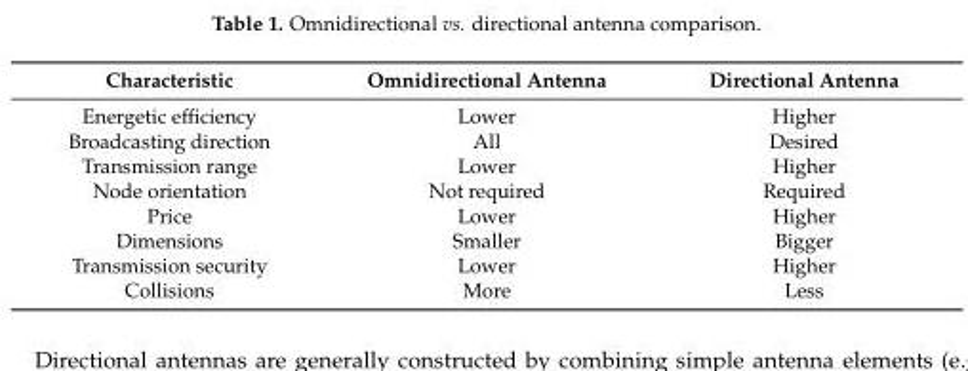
<table><thead><tr><td>Characteristic</td><td>Omnidirectional Antenna</td><td>Directional Antenna</td></tr></thead><tbody><tr><td>Energetic efficiency</td><td>Lower</td><td>Higher</td></tr><tr><td>Broadcasting direction</td><td>All</td><td>Desired</td></tr><tr><td>Transmission range</td><td>Lower</td><td>Higher</td></tr><tr><td>Node orientation</td><td>Not required</td><td>Required</td></tr><tr><td>Price</td><td>Lower</td><td>Higher</td></tr><tr><td>Dimensions</td><td>Smaller</td><td>Bigger</td></tr><tr><td>Transmission security</td><td>Lower</td><td>Higher</td></tr><tr><td>Collisions</td><td>More</td><td>Less</td></tr></tbody></table>